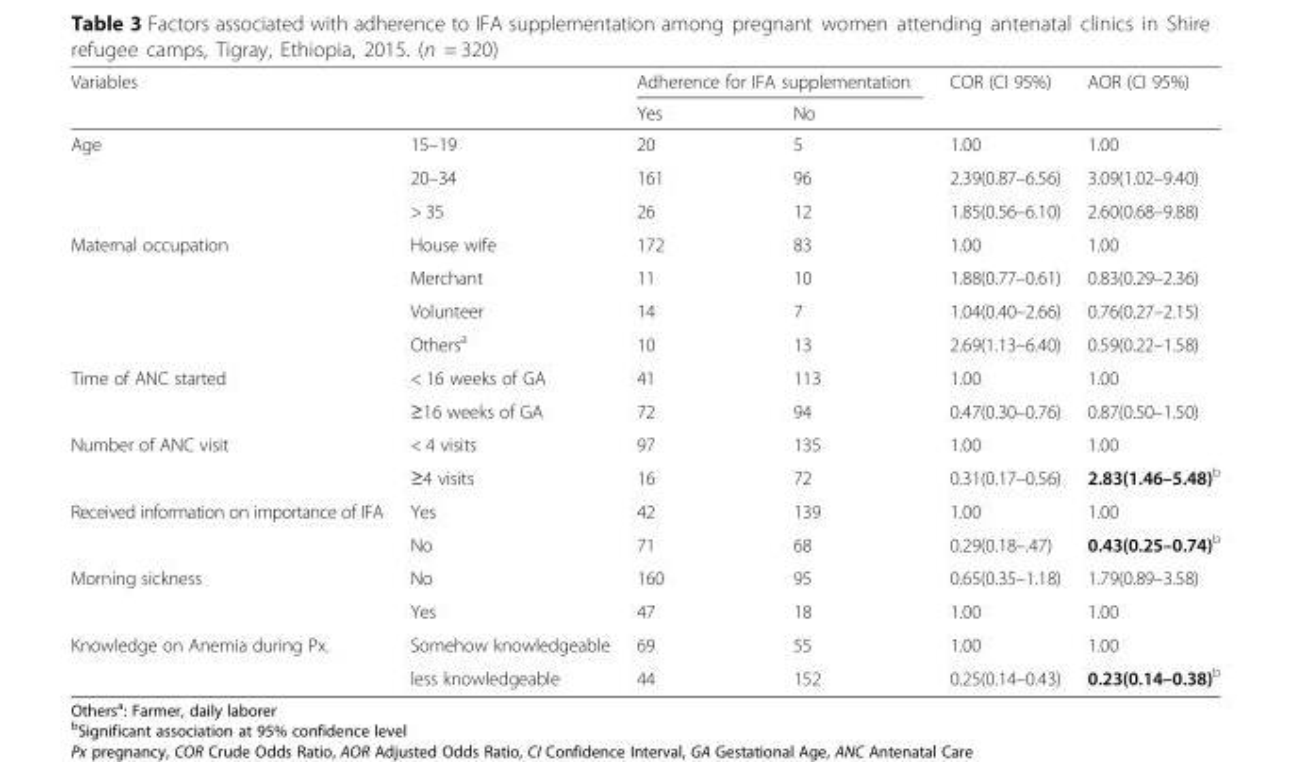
<table><thead><tr><td rowspan="2">Variables</td><td rowspan="2"></td><td colspan="2">Adherence for IFA supplementation</td><td rowspan="2">COR (CI 95%)</td><td rowspan="2">AOR (CI 95%)</td></tr><tr><td>Yes</td><td>No</td></tr></thead><tbody><tr><td rowspan="3">Age</td><td>15–19</td><td>20</td><td>5</td><td>1.00</td><td>1.00</td></tr><tr><td>20–34</td><td>161</td><td>96</td><td>2.39(0.87–6.56)</td><td>3.09(1.02–9.40)</td></tr><tr><td>&gt; 35</td><td>26</td><td>12</td><td>1.85(0.56–6.10)</td><td>2.60(0.68–9.88)</td></tr><tr><td rowspan="4">Maternal occupation</td><td>House wife</td><td>172</td><td>83</td><td>1.00</td><td>1.00</td></tr><tr><td>Merchant</td><td>11</td><td>10</td><td>1.88(0.77–0.61)</td><td>0.83(0.29–2.36)</td></tr><tr><td>Volunteer</td><td>14</td><td>7</td><td>1.04(0.40–2.66)</td><td>0.76(0.27–2.15)</td></tr><tr><td>Others<sup>a</sup></td><td>10</td><td>13</td><td>2.69(1.13–6.40)</td><td>0.59(0.22–1.58)</td></tr><tr><td rowspan="2">Time of ANC started</td><td>&lt; 16 weeks of GA</td><td>41</td><td>113</td><td>1.00</td><td>1.00</td></tr><tr><td>≥16 weeks of GA</td><td>72</td><td>94</td><td>0.47(0.30–0.76)</td><td>0.87(0.50–1.50)</td></tr><tr><td rowspan="2">Number of ANC visit</td><td>&lt; 4 visits</td><td>97</td><td>135</td><td>1.00</td><td>1.00</td></tr><tr><td>≥4 visits</td><td>16</td><td>72</td><td>0.31(0.17–0.56)</td><td>2.83(1.46–5.48)<sup>b</sup></td></tr><tr><td rowspan="2">Received information on importance of IFA</td><td>Yes</td><td>42</td><td>139</td><td>1.00</td><td>1.00</td></tr><tr><td>No</td><td>71</td><td>68</td><td>0.29(0.18–.47)</td><td>0.43(0.25–0.74)<sup>b</sup></td></tr><tr><td rowspan="2">Morning sickness</td><td>No</td><td>160</td><td>95</td><td>0.65(0.35–1.18)</td><td>1.79(0.89–3.58)</td></tr><tr><td>Yes</td><td>47</td><td>18</td><td>1.00</td><td>1.00</td></tr><tr><td rowspan="2">Knowledge on Anemia during Px.</td><td>Somehow knowledgeable</td><td>69</td><td>55</td><td>1.00</td><td>1.00</td></tr><tr><td>less knowledgeable</td><td>44</td><td>152</td><td>0.25(0.14–0.43)</td><td>0.23(0.14–0.38)<sup>b</sup></td></tr></tbody></table>